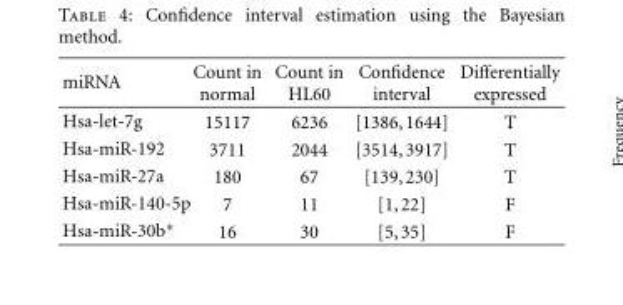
<table><thead><tr><td>miRNA</td><td>Count in normal</td><td>Count in HL60</td><td>Confidence interval</td><td>Differentially expressed</td></tr></thead><tbody><tr><td>Hsa-let-7g</td><td>15117</td><td>6236</td><td>[1386,1644]</td><td>T</td></tr><tr><td>Hsa-miR-192</td><td>3711</td><td>2044</td><td>[3514,3917]</td><td>T</td></tr><tr><td>Hsa-miR-27a</td><td>180</td><td>67</td><td>[139,230]</td><td>T</td></tr><tr><td>Hsa-miR-140-5p</td><td>7</td><td>11</td><td>[1,22]</td><td>F</td></tr><tr><td>Hsa-miR-30b∗</td><td>16</td><td>30</td><td>[5,35]</td><td>F</td></tr></tbody></table>